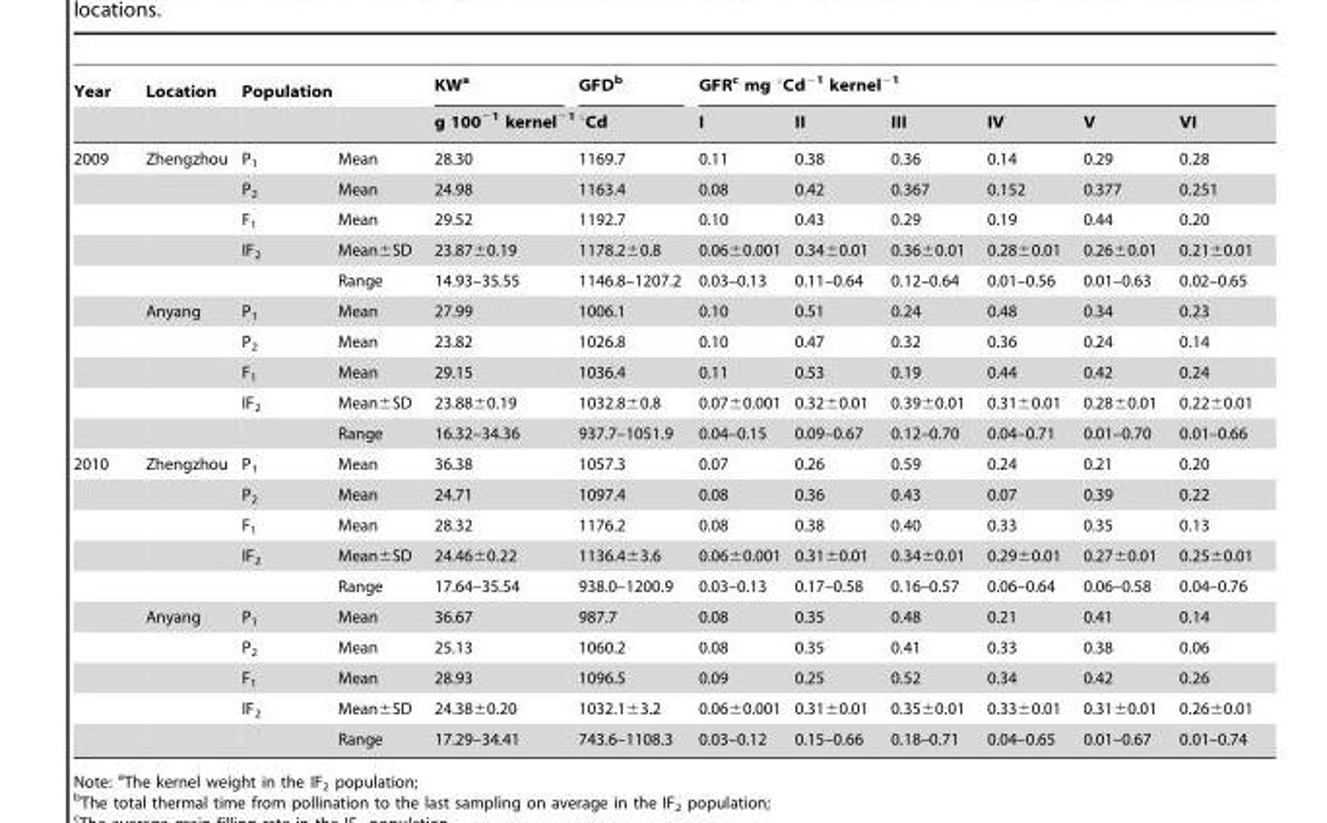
<table><thead><tr><td rowspan="2">Year</td><td rowspan="2">Location</td><td rowspan="2">Population</td><td rowspan="2"></td><td rowspan="2">KW<sup>a</sup> g 100<sup>−1</sup> kernel<sup>−1</sup></td><td rowspan="2">GFD<sup>b</sup> °Cd</td><td colspan="6">GFR<sup>c</sup> mg °Cd<sup>−1</sup> kernel<sup>−1</sup></td></tr><tr><td>I</td><td>II</td><td>III</td><td>IV</td><td>V</td><td>VI</td></tr></thead><tbody><tr><td rowspan="10">2009</td><td>Zhengzhou</td><td>P<sub>1</sub></td><td>Mean</td><td>28.30</td><td>1169.7</td><td>0.11</td><td>0.38</td><td>0.36</td><td>0.14</td><td>0.29</td><td>0.28</td></tr><tr><td></td><td>P<sub>2</sub></td><td>Mean</td><td>24.98</td><td>1163.4</td><td>0.08</td><td>0.42</td><td>0.367</td><td>0.152</td><td>0.377</td><td>0.251</td></tr><tr><td></td><td>F<sub>1</sub></td><td>Mean</td><td>29.52</td><td>1192.7</td><td>0.10</td><td>0.43</td><td>0.29</td><td>0.19</td><td>0.44</td><td>0.20</td></tr><tr><td></td><td>IF<sub>2</sub></td><td>Mean±SD</td><td>23.87±0.19</td><td>1178.2±0.8</td><td>0.06±0.001</td><td>0.34±0.01</td><td>0.36±0.01</td><td>0.28±0.01</td><td>0.26±0.01</td><td>0.21±0.01</td></tr><tr><td></td><td></td><td>Range</td><td>14.93–35.55</td><td>1146.8–1207.2</td><td>0.03–0.13</td><td>0.11–0.64</td><td>0.12–0.64</td><td>0.01–0.56</td><td>0.01–0.63</td><td>0.02–0.65</td></tr><tr><td>Anyang</td><td>P<sub>1</sub></td><td>Mean</td><td>27.99</td><td>1006.1</td><td>0.10</td><td>0.51</td><td>0.24</td><td>0.48</td><td>0.34</td><td>0.23</td></tr><tr><td></td><td>P<sub>2</sub></td><td>Mean</td><td>23.82</td><td>1026.8</td><td>0.10</td><td>0.47</td><td>0.32</td><td>0.36</td><td>0.24</td><td>0.14</td></tr><tr><td></td><td>F<sub>1</sub></td><td>Mean</td><td>29.15</td><td>1036.4</td><td>0.11</td><td>0.53</td><td>0.19</td><td>0.44</td><td>0.42</td><td>0.24</td></tr><tr><td></td><td>IF<sub>2</sub></td><td>Mean±SD</td><td>23.88±0.19</td><td>1032.8±0.8</td><td>0.07±0.001</td><td>0.32±0.01</td><td>0.39±0.01</td><td>0.31±0.01</td><td>0.28±0.01</td><td>0.22±0.01</td></tr><tr><td></td><td></td><td>Range</td><td>16.32–34.36</td><td>937.7–1051.9</td><td>0.04–0.15</td><td>0.09–0.67</td><td>0.12–0.70</td><td>0.04–0.71</td><td>0.01–0.70</td><td>0.01–0.66</td></tr><tr><td rowspan="10">2010</td><td>Zhengzhou</td><td>P<sub>1</sub></td><td>Mean</td><td>36.38</td><td>1057.3</td><td>0.07</td><td>0.26</td><td>0.59</td><td>0.24</td><td>0.21</td><td>0.20</td></tr><tr><td></td><td>P<sub>2</sub></td><td>Mean</td><td>24.71</td><td>1097.4</td><td>0.08</td><td>0.36</td><td>0.43</td><td>0.07</td><td>0.39</td><td>0.22</td></tr><tr><td></td><td>F<sub>1</sub></td><td>Mean</td><td>28.32</td><td>1176.2</td><td>0.08</td><td>0.38</td><td>0.40</td><td>0.33</td><td>0.35</td><td>0.13</td></tr><tr><td></td><td>IF<sub>2</sub></td><td>Mean±SD</td><td>24.46±0.22</td><td>1136.4±3.6</td><td>0.06±0.001</td><td>0.31±0.01</td><td>0.34±0.01</td><td>0.29±0.01</td><td>0.27±0.01</td><td>0.25±0.01</td></tr><tr><td></td><td></td><td>Range</td><td>17.64–35.54</td><td>938.0–1200.9</td><td>0.03–0.13</td><td>0.17–0.58</td><td>0.16–0.57</td><td>0.06–0.64</td><td>0.06–0.58</td><td>0.04–0.76</td></tr><tr><td>Anyang</td><td>P<sub>1</sub></td><td>Mean</td><td>36.67</td><td>987.7</td><td>0.08</td><td>0.35</td><td>0.48</td><td>0.21</td><td>0.41</td><td>0.14</td></tr><tr><td></td><td>P<sub>2</sub></td><td>Mean</td><td>25.13</td><td>1060.2</td><td>0.08</td><td>0.35</td><td>0.41</td><td>0.33</td><td>0.38</td><td>0.06</td></tr><tr><td></td><td>F<sub>1</sub></td><td>Mean</td><td>28.93</td><td>1096.5</td><td>0.09</td><td>0.25</td><td>0.52</td><td>0.34</td><td>0.42</td><td>0.26</td></tr><tr><td></td><td>IF<sub>2</sub></td><td>Mean±SD</td><td>24.38±0.20</td><td>1032.1±3.2</td><td>0.06±0.001</td><td>0.31±0.01</td><td>0.35±0.01</td><td>0.33±0.01</td><td>0.31±0.01</td><td>0.26±0.01</td></tr><tr><td></td><td></td><td>Range</td><td>17.29–34.41</td><td>743.6–1108.3</td><td>0.03–0.12</td><td>0.15–0.66</td><td>0.18–0.71</td><td>0.04–0.65</td><td>0.01–0.67</td><td>0.01–0.74</td></tr></tbody></table>